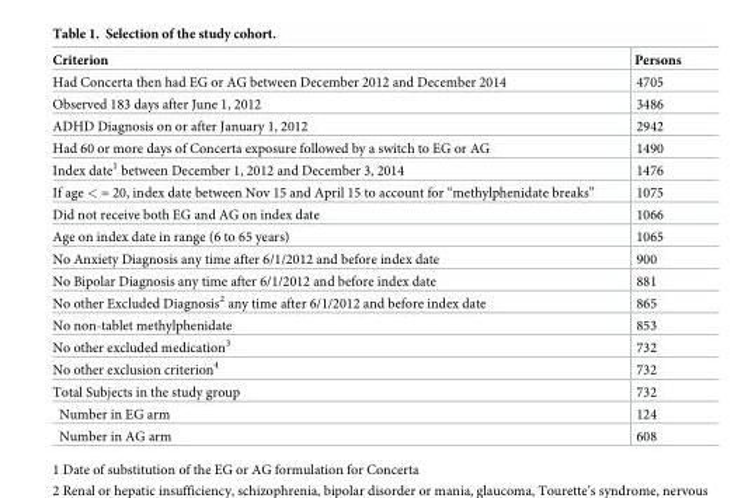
<table><thead><tr><td>Criterion</td><td>Persons</td></tr></thead><tbody><tr><td>Had Concerta then had EG or AG between December 2012 and December 2014</td><td>4705</td></tr><tr><td>Observed 183 days after June 1, 2012</td><td>3486</td></tr><tr><td>ADHD Diagnosis on or after January 1, 2012</td><td>2942</td></tr><tr><td>Had 60 or more days of Concerta exposure followed by a switch to EG or AG</td><td>1490</td></tr><tr><td>Index date<sup>1</sup> between December 1, 2012 and December 3, 2014</td><td>1476</td></tr><tr><td>If age &lt; = 20, index date between Nov 15 and April 15 to account for “methylphenidate breaks”</td><td>1075</td></tr><tr><td>Did not receive both EG and AG on index date</td><td>1066</td></tr><tr><td>Age on index date in range (6 to 65 years)</td><td>1065</td></tr><tr><td>No Anxiety Diagnosis any time after 6/1/2012 and before index date</td><td>900</td></tr><tr><td>No Bipolar Diagnosis any time after 6/1/2012 and before index date</td><td>881</td></tr><tr><td>No other Excluded Diagnosis<sup>2</sup> any time after 6/1/2012 and before index date</td><td>865</td></tr><tr><td>No non-tablet methylphenidate</td><td>853</td></tr><tr><td>No other excluded medication<sup>3</sup></td><td>732</td></tr><tr><td>No other exclusion criterion<sup>4</sup></td><td>732</td></tr><tr><td>Total Subjects in the study group</td><td>732</td></tr><tr><td>Number in EG arm</td><td>124</td></tr><tr><td>Number in AG arm</td><td>608</td></tr></tbody></table>